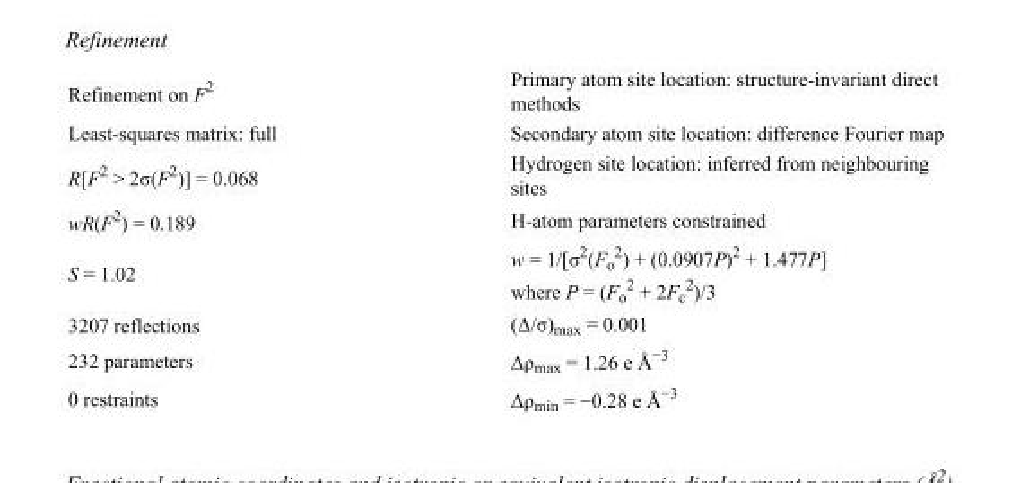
<table><tbody><tr><td>Refinement on F<sup>2</sup></td><td>Primary atom site location: structure-invariant direct methods</td></tr><tr><td>Least-squares matrix: full</td><td>Secondary atom site location: difference Fourier map</td></tr><tr><td>R[F<sup>2</sup> &gt; 2σ(F<sup>2</sup>)] = 0.068</td><td>Hydrogen site location: inferred from neighbouring sites</td></tr><tr><td>wR(F<sup>2</sup>) = 0.189</td><td>H-atom parameters constrained</td></tr><tr><td>S = 1.02</td><td>w = 1/[σ<sup>2</sup>(F<sub>o</sub> <sup>2</sup>) + (0.0907P)<sup>2</sup> + 1.477P] where P = (F<sub>o</sub> <sup>2</sup> + 2F<sub>c</sub> <sup>2</sup>)/3</td></tr><tr><td>3207 reflections</td><td>(Δ/σ)<sub>max</sub> = 0.001</td></tr><tr><td>232 parameters</td><td>Δρ<sub>max</sub> = 1.26 e Å<sup>−3</sup></td></tr><tr><td>0 restraints</td><td>Δρ<sub>min</sub> = −0.28 e Å<sup>−3</sup></td></tr></tbody></table>